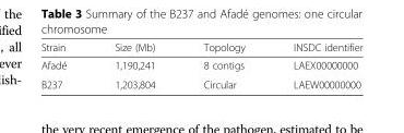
<table><thead><tr><td>Strain</td><td>Size (Mb)</td><td>Topology</td><td>INSDC identifier</td></tr></thead><tbody><tr><td>Afadé</td><td>1,190,241</td><td>8 contigs</td><td>LAEX00000000</td></tr><tr><td>B237</td><td>1,203,804</td><td>Circular</td><td>LAEW00000000</td></tr></tbody></table>